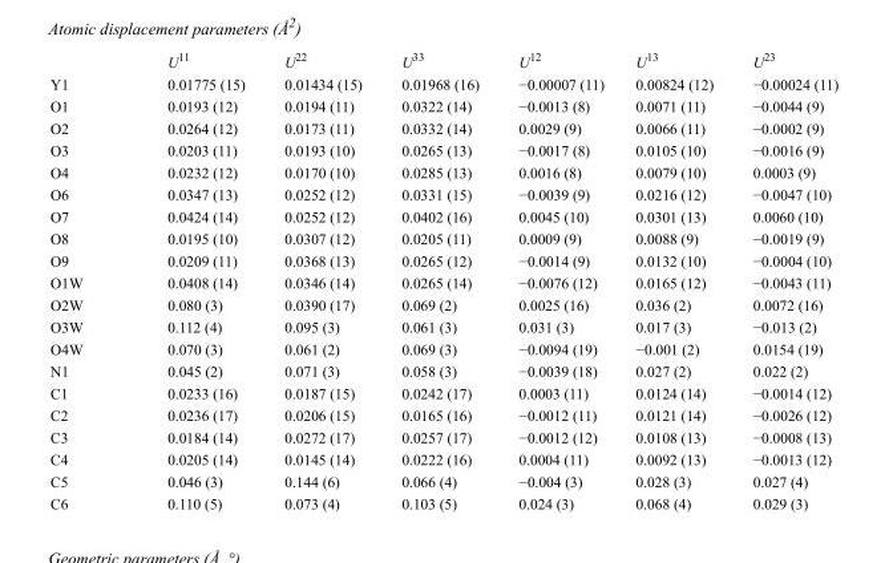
<table><thead><tr><td></td><td>U<sup>11</sup></td><td>U<sup>22</sup></td><td>U<sup>33</sup></td><td>U<sup>12</sup></td><td>U<sup>13</sup></td><td>U<sup>23</sup></td></tr></thead><tbody><tr><td>Y1</td><td>0.01775 (15)</td><td>0.01434 (15)</td><td>0.01968 (16)</td><td>−0.00007 (11)</td><td>0.00824 (12)</td><td>−0.00024 (11)</td></tr><tr><td>O1</td><td>0.0193 (12)</td><td>0.0194 (11)</td><td>0.0322 (14)</td><td>−0.0013 (8)</td><td>0.0071 (11)</td><td>−0.0044 (9)</td></tr><tr><td>O2</td><td>0.0264 (12)</td><td>0.0173 (11)</td><td>0.0332 (14)</td><td>0.0029 (9)</td><td>0.0066 (11)</td><td>−0.0002 (9)</td></tr><tr><td>O3</td><td>0.0203 (11)</td><td>0.0193 (10)</td><td>0.0265 (13)</td><td>−0.0017 (8)</td><td>0.0105 (10)</td><td>−0.0016 (9)</td></tr><tr><td>O4</td><td>0.0232 (12)</td><td>0.0170 (10)</td><td>0.0285 (13)</td><td>0.0016 (8)</td><td>0.0079 (10)</td><td>0.0003 (9)</td></tr><tr><td>O6</td><td>0.0347 (13)</td><td>0.0252 (12)</td><td>0.0331 (15)</td><td>−0.0039 (9)</td><td>0.0216 (12)</td><td>−0.0047 (10)</td></tr><tr><td>O7</td><td>0.0424 (14)</td><td>0.0252 (12)</td><td>0.0402 (16)</td><td>0.0045 (10)</td><td>0.0301 (13)</td><td>0.0060 (10)</td></tr><tr><td>O8</td><td>0.0195 (10)</td><td>0.0307 (12)</td><td>0.0205 (11)</td><td>0.0009 (9)</td><td>0.0088 (9)</td><td>−0.0019 (9)</td></tr><tr><td>O9</td><td>0.0209 (11)</td><td>0.0368 (13)</td><td>0.0265 (12)</td><td>−0.0014 (9)</td><td>0.0132 (10)</td><td>−0.0004 (10)</td></tr><tr><td>O1W</td><td>0.0408 (14)</td><td>0.0346 (14)</td><td>0.0265 (14)</td><td>−0.0076 (12)</td><td>0.0165 (12)</td><td>−0.0043 (11)</td></tr><tr><td>O2W</td><td>0.080 (3)</td><td>0.0390 (17)</td><td>0.069 (2)</td><td>0.0025 (16)</td><td>0.036 (2)</td><td>0.0072 (16)</td></tr><tr><td>O3W</td><td>0.112 (4)</td><td>0.095 (3)</td><td>0.061 (3)</td><td>0.031 (3)</td><td>0.017 (3)</td><td>−0.013 (2)</td></tr><tr><td>O4W</td><td>0.070 (3)</td><td>0.061 (2)</td><td>0.069 (3)</td><td>−0.0094 (19)</td><td>−0.001 (2)</td><td>0.0154 (19)</td></tr><tr><td>N1</td><td>0.045 (2)</td><td>0.071 (3)</td><td>0.058 (3)</td><td>−0.0039 (18)</td><td>0.027 (2)</td><td>0.022 (2)</td></tr><tr><td>C1</td><td>0.0233 (16)</td><td>0.0187 (15)</td><td>0.0242 (17)</td><td>0.0003 (11)</td><td>0.0124 (14)</td><td>−0.0014 (12)</td></tr><tr><td>C2</td><td>0.0236 (17)</td><td>0.0206 (15)</td><td>0.0165 (16)</td><td>−0.0012 (11)</td><td>0.0121 (14)</td><td>−0.0026 (12)</td></tr><tr><td>C3</td><td>0.0184 (14)</td><td>0.0272 (17)</td><td>0.0257 (17)</td><td>−0.0012 (12)</td><td>0.0108 (13)</td><td>−0.0008 (13)</td></tr><tr><td>C4</td><td>0.0205 (14)</td><td>0.0145 (14)</td><td>0.0222 (16)</td><td>0.0004 (11)</td><td>0.0092 (13)</td><td>−0.0013 (12)</td></tr><tr><td>C5</td><td>0.046 (3)</td><td>0.144 (6)</td><td>0.066 (4)</td><td>−0.004 (3)</td><td>0.028 (3)</td><td>0.027 (4)</td></tr><tr><td>C6</td><td>0.110 (5)</td><td>0.073 (4)</td><td>0.103 (5)</td><td>0.024 (3)</td><td>0.068 (4)</td><td>0.029 (3)</td></tr></tbody></table>